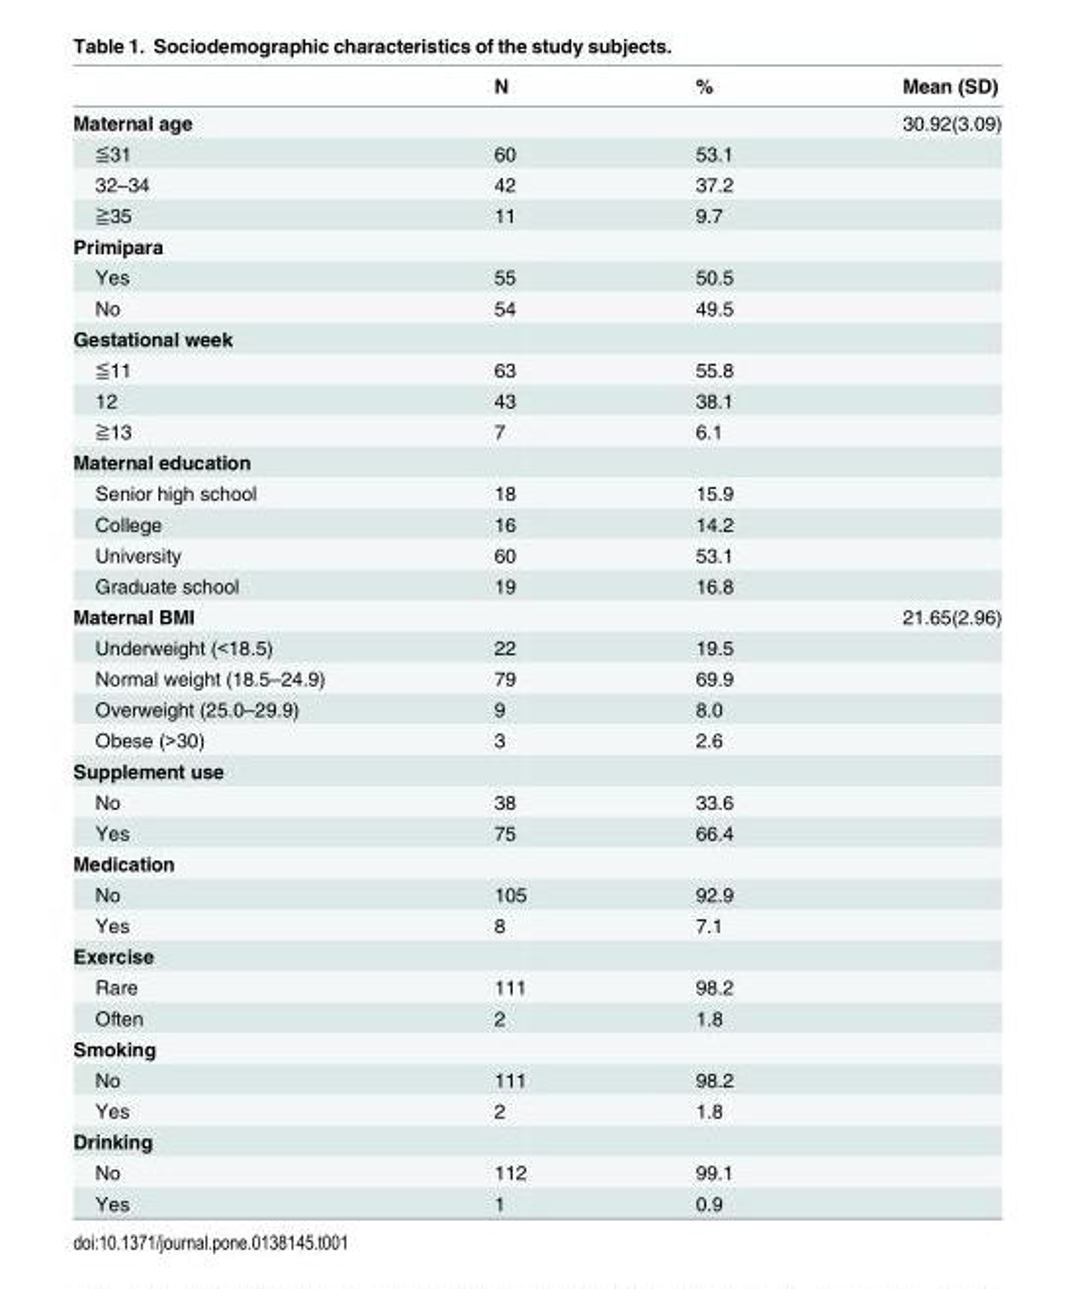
<table><thead><tr><td></td><td>N</td><td>%</td><td>Mean (SD)</td></tr></thead><tbody><tr><td>Maternal age</td><td></td><td></td><td>30.92(3.09)</td></tr><tr><td>≦31</td><td>60</td><td>53.1</td><td></td></tr><tr><td>32–34</td><td>42</td><td>37.2</td><td></td></tr><tr><td>≧35</td><td>11</td><td>9.7</td><td></td></tr><tr><td colspan="4">Primipara</td></tr><tr><td>Yes</td><td>55</td><td>50.5</td><td></td></tr><tr><td>No</td><td>54</td><td>49.5</td><td></td></tr><tr><td colspan="4">Gestational week</td></tr><tr><td>≦11</td><td>63</td><td>55.8</td><td></td></tr><tr><td>12</td><td>43</td><td>38.1</td><td></td></tr><tr><td>≧13</td><td>7</td><td>6.1</td><td></td></tr><tr><td colspan="4">Maternal education</td></tr><tr><td>Senior high school</td><td>18</td><td>15.9</td><td></td></tr><tr><td>College</td><td>16</td><td>14.2</td><td></td></tr><tr><td>University</td><td>60</td><td>53.1</td><td></td></tr><tr><td>Graduate school</td><td>19</td><td>16.8</td><td></td></tr><tr><td>Maternal BMI</td><td></td><td></td><td>21.65(2.96)</td></tr><tr><td>Underweight (&lt;18.5)</td><td>22</td><td>19.5</td><td></td></tr><tr><td>Normal weight (18.5–24.9)</td><td>79</td><td>69.9</td><td></td></tr><tr><td>Overweight (25.0–29.9)</td><td>9</td><td>8.0</td><td></td></tr><tr><td>Obese (&gt;30)</td><td>3</td><td>2.6</td><td></td></tr><tr><td colspan="4">Supplement use</td></tr><tr><td>No</td><td>38</td><td>33.6</td><td></td></tr><tr><td>Yes</td><td>75</td><td>66.4</td><td></td></tr><tr><td colspan="4">Medication</td></tr><tr><td>No</td><td>105</td><td>92.9</td><td></td></tr><tr><td>Yes</td><td>8</td><td>7.1</td><td></td></tr><tr><td colspan="4">Exercise</td></tr><tr><td>Rare</td><td>111</td><td>98.2</td><td></td></tr><tr><td>Often</td><td>2</td><td>1.8</td><td></td></tr><tr><td colspan="4">Smoking</td></tr><tr><td>No</td><td>111</td><td>98.2</td><td></td></tr><tr><td>Yes</td><td>2</td><td>1.8</td><td></td></tr><tr><td colspan="4">Drinking</td></tr><tr><td>No</td><td>112</td><td>99.1</td><td></td></tr><tr><td>Yes</td><td>1</td><td>0.9</td><td></td></tr></tbody></table>